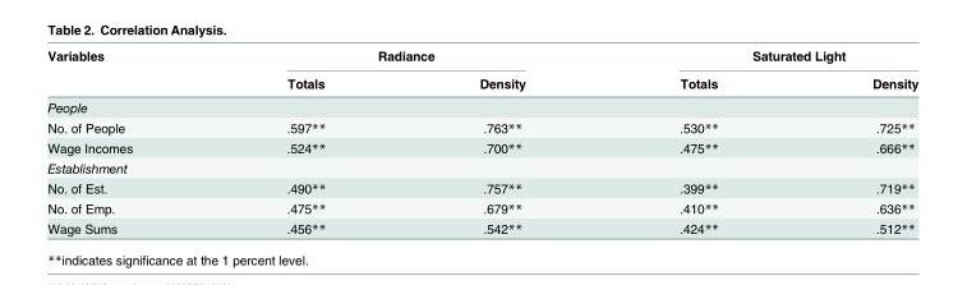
<table><thead><tr><td rowspan="2">Variables</td><td colspan="2">Radiance</td><td colspan="2">Saturated Light</td></tr><tr><td>Totals</td><td>Density</td><td>Totals</td><td>Density</td></tr></thead><tbody><tr><td colspan="5">People</td></tr><tr><td>No. of People</td><td>.597**</td><td>.763**</td><td>.530**</td><td>.725**</td></tr><tr><td>Wage Incomes</td><td>.524**</td><td>.700**</td><td>.475**</td><td>.666**</td></tr><tr><td colspan="5">Establishment</td></tr><tr><td>No. of Est.</td><td>.490**</td><td>.757**</td><td>.399**</td><td>.719**</td></tr><tr><td>No. of Emp.</td><td>.475**</td><td>.679**</td><td>.410**</td><td>.636**</td></tr><tr><td>Wage Sums</td><td>.456**</td><td>.542**</td><td>.424**</td><td>.512**</td></tr></tbody></table>